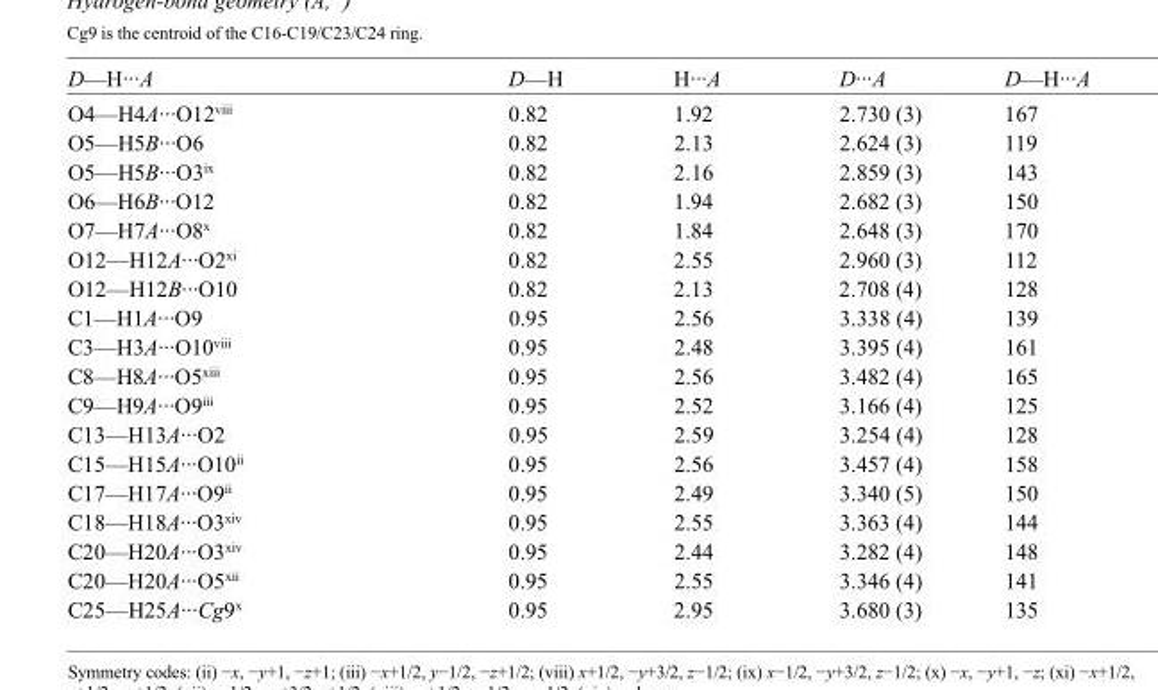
<table><tbody><tr><td>D—H···A</td><td>D—H</td><td>H···A</td><td>D···A</td><td>D—H···A</td></tr><tr><td>O4—H4A···O12<sup>viii</sup></td><td>0.82</td><td>1.92</td><td>2.730 (3)</td><td>167</td></tr><tr><td>O5—H5B···O6</td><td>0.82</td><td>2.13</td><td>2.624 (3)</td><td>119</td></tr><tr><td>O5—H5B···O3<sup>ix</sup></td><td>0.82</td><td>2.16</td><td>2.859 (3)</td><td>143</td></tr><tr><td>O6—H6B···O12</td><td>0.82</td><td>1.94</td><td>2.682 (3)</td><td>150</td></tr><tr><td>O7—H7A···O8<sup>x</sup></td><td>0.82</td><td>1.84</td><td>2.648 (3)</td><td>170</td></tr><tr><td>O12—H12A···O2<sup>xi</sup></td><td>0.82</td><td>2.55</td><td>2.960 (3)</td><td>112</td></tr><tr><td>O12—H12B···O10</td><td>0.82</td><td>2.13</td><td>2.708 (4)</td><td>128</td></tr><tr><td>C1—H1A···O9</td><td>0.95</td><td>2.56</td><td>3.338 (4)</td><td>139</td></tr><tr><td>C3—H3A···O10<sup>viii</sup></td><td>0.95</td><td>2.48</td><td>3.395 (4)</td><td>161</td></tr><tr><td>C8—H8A···O5<sup>xiii</sup></td><td>0.95</td><td>2.56</td><td>3.482 (4)</td><td>165</td></tr><tr><td>C9—H9A···O9<sup>iii</sup></td><td>0.95</td><td>2.52</td><td>3.166 (4)</td><td>125</td></tr><tr><td>C13—H13A···O2</td><td>0.95</td><td>2.59</td><td>3.254 (4)</td><td>128</td></tr><tr><td>C15—H15A···O10<sup>ii</sup></td><td>0.95</td><td>2.56</td><td>3.457 (4)</td><td>158</td></tr><tr><td>C17—H17A···O9<sup>ii</sup></td><td>0.95</td><td>2.49</td><td>3.340 (5)</td><td>150</td></tr><tr><td>C18—H18A···O3<sup>xiv</sup></td><td>0.95</td><td>2.55</td><td>3.363 (4)</td><td>144</td></tr><tr><td>C20—H20A···O3<sup>xiv</sup></td><td>0.95</td><td>2.44</td><td>3.282 (4)</td><td>148</td></tr><tr><td>C20—H20A···O5<sup>xii</sup></td><td>0.95</td><td>2.55</td><td>3.346 (4)</td><td>141</td></tr><tr><td>C25—H25A···Cg9<sup>x</sup></td><td>0.95</td><td>2.95</td><td>3.680 (3)</td><td>135</td></tr></tbody></table>